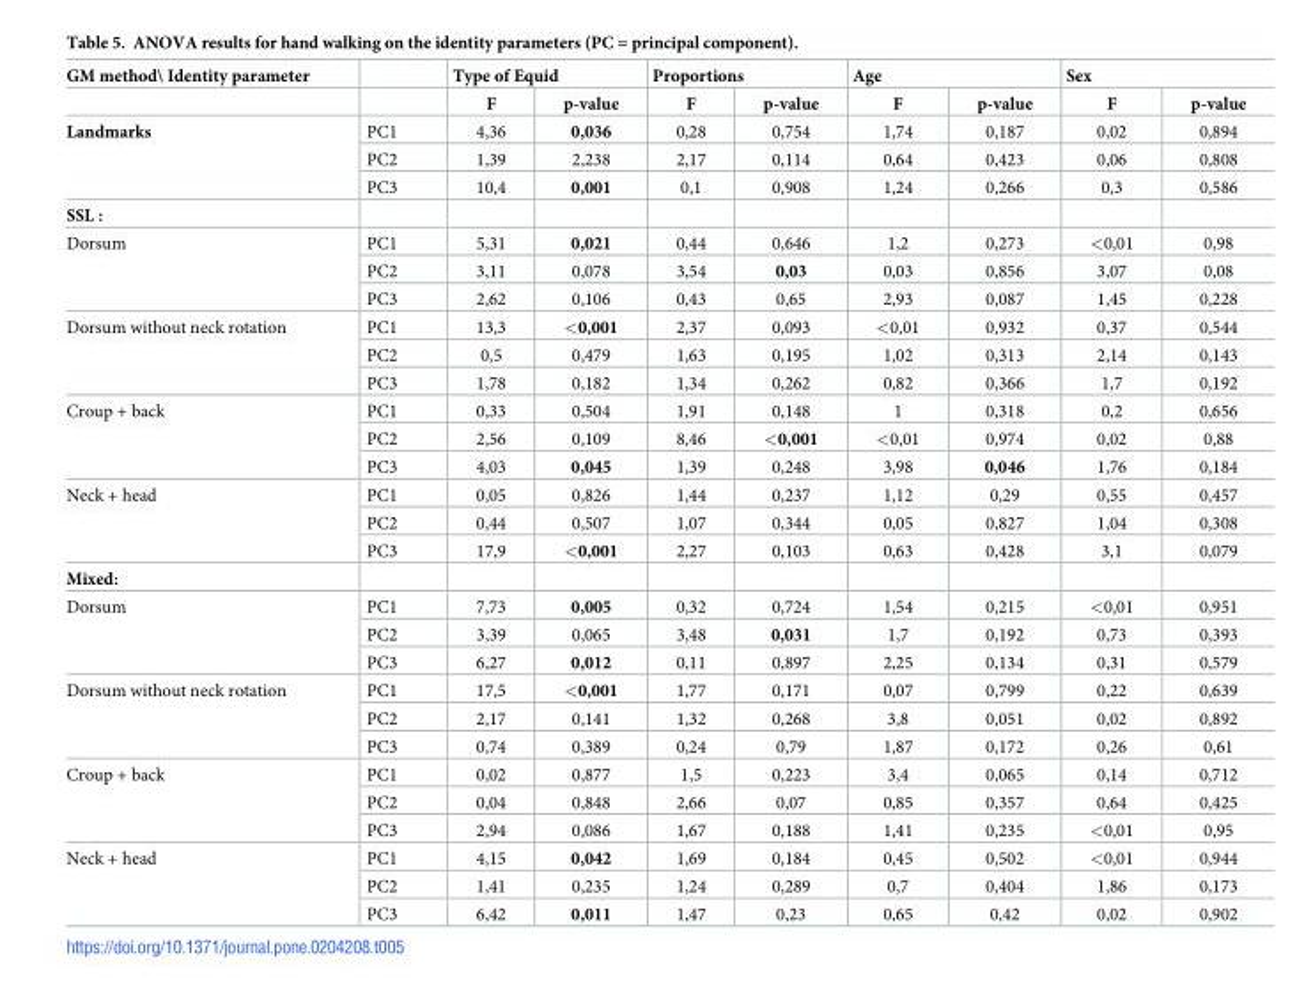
<table><thead><tr><td rowspan="2">GM method\ Identity parameter</td><td rowspan="2"></td><td colspan="2">Type of Equid</td><td colspan="2">Proportions</td><td colspan="2">Age</td><td colspan="2">Sex</td></tr><tr><td>F</td><td>p-value</td><td>F</td><td>p-value</td><td>F</td><td>p-value</td><td>F</td><td>p-value</td></tr></thead><tbody><tr><td rowspan="3">Landmarks</td><td>PC1</td><td>4,36</td><td>0,036</td><td>0,28</td><td>0,754</td><td>1,74</td><td>0,187</td><td>0,02</td><td>0,894</td></tr><tr><td>PC2</td><td>1,39</td><td>2,238</td><td>2,17</td><td>0,114</td><td>0,64</td><td>0,423</td><td>0,06</td><td>0,808</td></tr><tr><td>PC3</td><td>10,4</td><td>0,001</td><td>0,1</td><td>0,908</td><td>1,24</td><td>0,266</td><td>0,3</td><td>0,586</td></tr><tr><td colspan="10">SSL :</td></tr><tr><td rowspan="3">Dorsum</td><td>PC1</td><td>5,31</td><td>0,021</td><td>0,44</td><td>0,646</td><td>1,2</td><td>0,273</td><td>&lt;0,01</td><td>0,98</td></tr><tr><td>PC2</td><td>3,11</td><td>0,078</td><td>3,54</td><td>0,03</td><td>0,03</td><td>0,856</td><td>3,07</td><td>0,08</td></tr><tr><td>PC3</td><td>2,62</td><td>0,106</td><td>0,43</td><td>0,65</td><td>2,93</td><td>0,087</td><td>1,45</td><td>0,228</td></tr><tr><td rowspan="3">Dorsum without neck rotation</td><td>PC1</td><td>13,3</td><td>&lt;0,001</td><td>2,37</td><td>0,093</td><td>&lt;0,01</td><td>0,932</td><td>0,37</td><td>0,544</td></tr><tr><td>PC2</td><td>0,5</td><td>0,479</td><td>1,63</td><td>0,195</td><td>1,02</td><td>0,313</td><td>2,14</td><td>0,143</td></tr><tr><td>PC3</td><td>1,78</td><td>0,182</td><td>1,34</td><td>0,262</td><td>0,82</td><td>0,366</td><td>1,7</td><td>0,192</td></tr><tr><td rowspan="3">Croup + back</td><td>PC1</td><td>0,33</td><td>0,504</td><td>1,91</td><td>0,148</td><td>1</td><td>0,318</td><td>0,2</td><td>0,656</td></tr><tr><td>PC2</td><td>2,56</td><td>0,109</td><td>8,46</td><td>&lt;0,001</td><td>&lt;0,01</td><td>0,974</td><td>0,02</td><td>0,88</td></tr><tr><td>PC3</td><td>4,03</td><td>0,045</td><td>1,39</td><td>0,248</td><td>3,98</td><td>0,046</td><td>1,76</td><td>0,184</td></tr><tr><td rowspan="3">Neck + head</td><td>PC1</td><td>0,05</td><td>0,826</td><td>1,44</td><td>0,237</td><td>1,12</td><td>0,29</td><td>0,55</td><td>0,457</td></tr><tr><td>PC2</td><td>0,44</td><td>0,507</td><td>1,07</td><td>0,344</td><td>0,05</td><td>0,827</td><td>1,04</td><td>0,308</td></tr><tr><td>PC3</td><td>17,9</td><td>&lt;0,001</td><td>2,27</td><td>0,103</td><td>0,63</td><td>0,428</td><td>3,1</td><td>0,079</td></tr><tr><td colspan="10">Mixed:</td></tr><tr><td rowspan="3">Dorsum</td><td>PC1</td><td>7,73</td><td>0,005</td><td>0,32</td><td>0,724</td><td>1,54</td><td>0,215</td><td>&lt;0,01</td><td>0,951</td></tr><tr><td>PC2</td><td>3,39</td><td>0,065</td><td>3,48</td><td>0,031</td><td>1,7</td><td>0,192</td><td>0,73</td><td>0,393</td></tr><tr><td>PC3</td><td>6,27</td><td>0,012</td><td>0,11</td><td>0,897</td><td>2,25</td><td>0,134</td><td>0,31</td><td>0,579</td></tr><tr><td rowspan="3">Dorsum without neck rotation</td><td>PC1</td><td>17,5</td><td>&lt;0,001</td><td>1,77</td><td>0,171</td><td>0,07</td><td>0,799</td><td>0,22</td><td>0,639</td></tr><tr><td>PC2</td><td>2,17</td><td>0,141</td><td>1,32</td><td>0,268</td><td>3,8</td><td>0,051</td><td>0,02</td><td>0,892</td></tr><tr><td>PC3</td><td>0,74</td><td>0,389</td><td>0,24</td><td>0,79</td><td>1,87</td><td>0,172</td><td>0,26</td><td>0,61</td></tr><tr><td rowspan="3">Croup + back</td><td>PC1</td><td>0,02</td><td>0,877</td><td>1,5</td><td>0,223</td><td>3,4</td><td>0,065</td><td>0,14</td><td>0,712</td></tr><tr><td>PC2</td><td>0,04</td><td>0,848</td><td>2,66</td><td>0,07</td><td>0,85</td><td>0,357</td><td>0,64</td><td>0,425</td></tr><tr><td>PC3</td><td>2,94</td><td>0,086</td><td>1,67</td><td>0,188</td><td>1,41</td><td>0,235</td><td>&lt;0,01</td><td>0,95</td></tr><tr><td rowspan="3">Neck + head</td><td>PC1</td><td>4,15</td><td>0,042</td><td>1,69</td><td>0,184</td><td>0,45</td><td>0,502</td><td>&lt;0,01</td><td>0,944</td></tr><tr><td>PC2</td><td>1,41</td><td>0,235</td><td>1,24</td><td>0,289</td><td>0,7</td><td>0,404</td><td>1,86</td><td>0,173</td></tr><tr><td>PC3</td><td>6,42</td><td>0,011</td><td>1,47</td><td>0,23</td><td>0,65</td><td>0,42</td><td>0,02</td><td>0,902</td></tr></tbody></table>